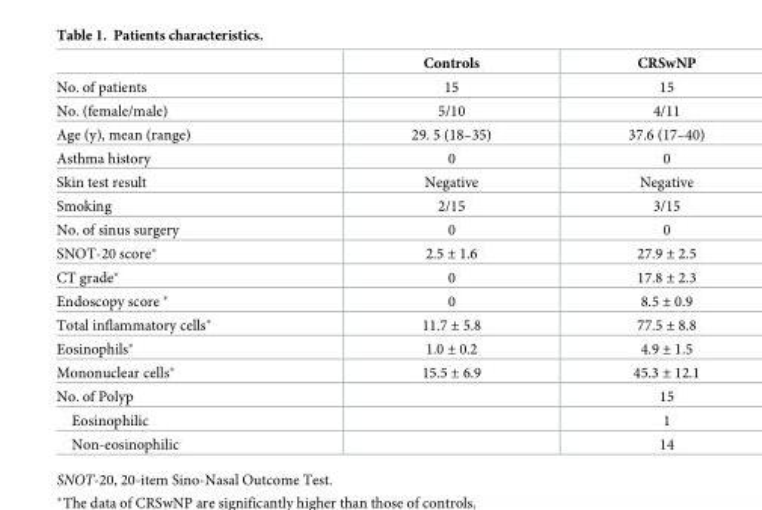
<table><thead><tr><td></td><td>Controls</td><td>CRSwNP</td></tr></thead><tbody><tr><td>No. of patients</td><td>15</td><td>15</td></tr><tr><td>No. (female/male)</td><td>5/10</td><td>4/11</td></tr><tr><td>Age (y), mean (range)</td><td>29. 5 (18–35)</td><td>37.6 (17–40)</td></tr><tr><td>Asthma history</td><td>0</td><td>0</td></tr><tr><td>Skin test result</td><td>Negative</td><td>Negative</td></tr><tr><td>Smoking</td><td>2/15</td><td>3/15</td></tr><tr><td>No. of sinus surgery</td><td>0</td><td>0</td></tr><tr><td>SNOT-20 score*</td><td>2.5 ± 1.6</td><td>27.9 ± 2.5</td></tr><tr><td>CT grade*</td><td>0</td><td>17.8 ± 2.3</td></tr><tr><td>Endoscopy score *</td><td>0</td><td>8.5 ± 0.9</td></tr><tr><td>Total inflammatory cells*</td><td>11.7 ± 5.8</td><td>77.5 ± 8.8</td></tr><tr><td>Eosinophils*</td><td>1.0 ± 0.2</td><td>4.9 ± 1.5</td></tr><tr><td>Mononuclear cells*</td><td>15.5 ± 6.9</td><td>45.3 ± 12.1</td></tr><tr><td>No. of Polyp</td><td></td><td>15</td></tr><tr><td>Eosinophilic</td><td></td><td>1</td></tr><tr><td>Non-eosinophilic</td><td></td><td>14</td></tr></tbody></table>